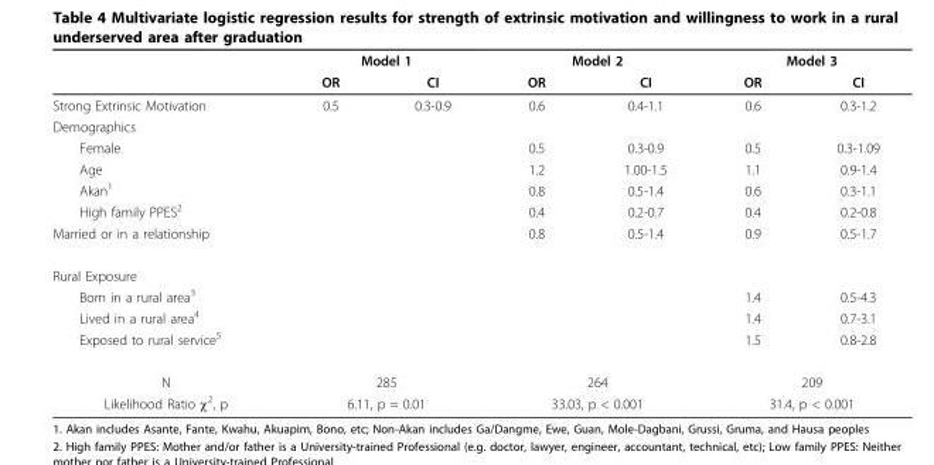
<table><thead><tr><td rowspan="2"></td><td colspan="2">Model 1</td><td colspan="2">Model 2</td><td colspan="2">Model 3</td></tr><tr><td>OR</td><td>CI</td><td>OR</td><td>CI</td><td>OR</td><td>CI</td></tr></thead><tbody><tr><td>Strong Extrinsic Motivation</td><td>0.5</td><td>0.3-0.9</td><td>0.6</td><td>0.4-1.1</td><td>0.6</td><td>0.3-1.2</td></tr><tr><td colspan="7">Demographics</td></tr><tr><td>Female</td><td></td><td></td><td>0.5</td><td>0.3-0.9</td><td>0.5</td><td>0.3-1.09</td></tr><tr><td>Age</td><td></td><td></td><td>1.2</td><td>1.00-1.5</td><td>1.1</td><td>0.9-1.4</td></tr><tr><td>Akan<sup>1</sup></td><td></td><td></td><td>0.8</td><td>0.5-1.4</td><td>0.6</td><td>0.3-1.1</td></tr><tr><td>High family PPES<sup>2</sup></td><td></td><td></td><td>0.4</td><td>0.2-0.7</td><td>0.4</td><td>0.2-0.8</td></tr><tr><td>Married or in a relationship</td><td></td><td></td><td>0.8</td><td>0.5-1.4</td><td>0.9</td><td>0.5-1.7</td></tr><tr><td colspan="7">Rural Exposure</td></tr><tr><td>Born in a rural area<sup>3</sup></td><td></td><td></td><td></td><td></td><td>1.4</td><td>0.5-4.3</td></tr><tr><td>Lived in a rural area<sup>4</sup></td><td></td><td></td><td></td><td></td><td>1.4</td><td>0.7-3.1</td></tr><tr><td>Exposed to rural service<sup>5</sup></td><td></td><td></td><td></td><td></td><td>1.5</td><td>0.8-2.8</td></tr><tr><td>N</td><td colspan="2">285</td><td colspan="2">264</td><td colspan="2">209</td></tr><tr><td>Likelihood Ratio χ<sup>2</sup>, p</td><td colspan="2">6.11, p = 0.01</td><td colspan="2">33.03, p &lt; 0.001</td><td colspan="2">31.4, p &lt; 0.001</td></tr></tbody></table>